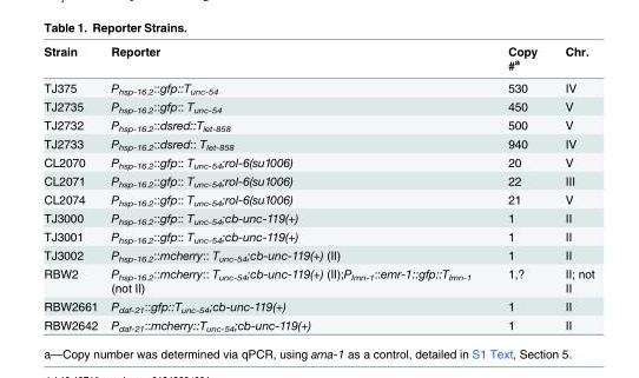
<table><thead><tr><td>Strain</td><td>Reporter</td><td>Copy #<sup>a</sup></td><td>Chr.</td></tr></thead><tbody><tr><td>TJ375</td><td>P<sub>hsp-16.2</sub>::gfp::T<sub>unc-54</sub></td><td>530</td><td>IV</td></tr><tr><td>TJ2735</td><td>P<sub>hsp-16.2</sub>::gfp:: T<sub>unc-54</sub></td><td>450</td><td>V</td></tr><tr><td>TJ2732</td><td>P<sub>hsp-16.2</sub>::dsred::T<sub>let-858</sub></td><td>500</td><td>V</td></tr><tr><td>TJ2733</td><td>P<sub>hsp-16.2</sub>::dsred:: T<sub>let-858</sub></td><td>940</td><td>IV</td></tr><tr><td>CL2070</td><td>P<sub>hsp-16.2</sub>::gfp:: T<sub>unc-54</sub>;rol-6(su1006)</td><td>20</td><td>V</td></tr><tr><td>CL2071</td><td>P<sub>hsp-16.2</sub>::gfp:: T<sub>unc-54</sub>;rol-6(su1006)</td><td>22</td><td>III</td></tr><tr><td>CL2074</td><td>P<sub>hsp-16.2</sub>::gfp:: T<sub>unc-54</sub>;rol-6(su1006)</td><td>21</td><td>V</td></tr><tr><td>TJ3000</td><td>P<sub>hsp-16.2</sub>::gfp:: T<sub>unc-54</sub>;cb-unc-119(+)</td><td>1</td><td>II</td></tr><tr><td>TJ3001</td><td>P<sub>hsp-16.2</sub>::gfp:: T<sub>unc-54</sub>;cb-unc-119(+)</td><td>1</td><td>II</td></tr><tr><td>TJ3002</td><td>P<sub>hsp-16.2</sub>::mcherry:: T<sub>unc-54</sub>;cb-unc-119(+) (II)</td><td>1</td><td>II</td></tr><tr><td>RBW2</td><td>P<sub>hsp-16.2</sub>::mcherry:: T<sub>unc-54</sub>;cb-unc-119(+) (II);P<sub>lmn-1</sub>::emr-1::gfp::T<sub>lmn-1</sub> (not II)</td><td>1,?</td><td>II; not II</td></tr><tr><td>RBW2661</td><td>P<sub>daf-21</sub>::gfp::T<sub>unc-54</sub>;cb-unc-119(+)</td><td>1</td><td>II</td></tr><tr><td>RBW2642</td><td>P<sub>daf-21</sub>::mcherry::T<sub>unc-54</sub>;cb-unc-119(+)</td><td>1</td><td>II</td></tr></tbody></table>